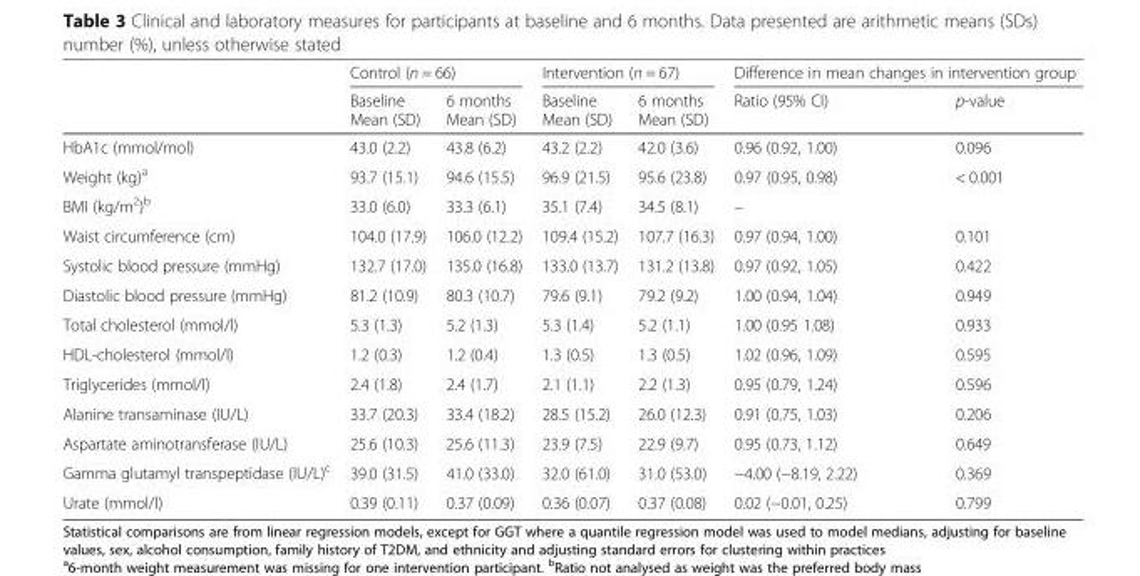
<table><thead><tr><td rowspan="2"></td><td colspan="2">Control (n = 66)</td><td colspan="2">Intervention (n = 67)</td><td colspan="2">Difference in mean changes in intervention group</td></tr><tr><td>Baseline Mean (SD)</td><td>6 months Mean (SD)</td><td>Baseline Mean (SD)</td><td>6 months Mean (SD)</td><td>Ratio (95% CI)</td><td>p-value</td></tr></thead><tbody><tr><td>HbA1c (mmol/mol)</td><td>43.0 (2.2)</td><td>43.8 (6.2)</td><td>43.2 (2.2)</td><td>42.0 (3.6)</td><td>0.96 (0.92, 1.00)</td><td>0.096</td></tr><tr><td>Weight (kg)<sup>a</sup></td><td>93.7 (15.1)</td><td>94.6 (15.5)</td><td>96.9 (21.5)</td><td>95.6 (23.8)</td><td>0.97 (0.95, 0.98)</td><td>&lt; 0.001</td></tr><tr><td>BMI (kg/m<sup>2</sup>)<sup>b</sup></td><td>33.0 (6.0)</td><td>33.3 (6.1)</td><td>35.1 (7.4)</td><td>34.5 (8.1)</td><td>–</td><td></td></tr><tr><td>Waist circumference (cm)</td><td>104.0 (17.9)</td><td>106.0 (12.2)</td><td>109.4 (15.2)</td><td>107.7 (16.3)</td><td>0.97 (0.94, 1.00)</td><td>0.101</td></tr><tr><td>Systolic blood pressure (mmHg)</td><td>132.7 (17.0)</td><td>135.0 (16.8)</td><td>133.0 (13.7)</td><td>131.2 (13.8)</td><td>0.97 (0.92, 1.05)</td><td>0.422</td></tr><tr><td>Diastolic blood pressure (mmHg)</td><td>81.2 (10.9)</td><td>80.3 (10.7)</td><td>79.6 (9.1)</td><td>79.2 (9.2)</td><td>1.00 (0.94, 1.04)</td><td>0.949</td></tr><tr><td>Total cholesterol (mmol/l)</td><td>5.3 (1.3)</td><td>5.2 (1.3)</td><td>5.3 (1.4)</td><td>5.2 (1.1)</td><td>1.00 (0.95 1.08)</td><td>0.933</td></tr><tr><td>HDL-cholesterol (mmol/l)</td><td>1.2 (0.3)</td><td>1.2 (0.4)</td><td>1.3 (0.5)</td><td>1.3 (0.5)</td><td>1.02 (0.96, 1.09)</td><td>0.595</td></tr><tr><td>Triglycerides (mmol/l)</td><td>2.4 (1.8)</td><td>2.4 (1.7)</td><td>2.1 (1.1)</td><td>2.2 (1.3)</td><td>0.95 (0.79, 1.24)</td><td>0.596</td></tr><tr><td>Alanine transaminase (IU/L)</td><td>33.7 (20.3)</td><td>33.4 (18.2)</td><td>28.5 (15.2)</td><td>26.0 (12.3)</td><td>0.91 (0.75, 1.03)</td><td>0.206</td></tr><tr><td>Aspartate aminotransferase (IU/L)</td><td>25.6 (10.3)</td><td>25.6 (11.3)</td><td>23.9 (7.5)</td><td>22.9 (9.7)</td><td>0.95 (0.73, 1.12)</td><td>0.649</td></tr><tr><td>Gamma glutamyl transpeptidase (IU/L)<sup>c</sup></td><td>39.0 (31.5)</td><td>41.0 (33.0)</td><td>32.0 (61.0)</td><td>31.0 (53.0)</td><td>−4.00 (−8.19, 2.22)</td><td>0.369</td></tr><tr><td>Urate (mmol/l)</td><td>0.39 (0.11)</td><td>0.37 (0.09)</td><td>0.36 (0.07)</td><td>0.37 (0.08)</td><td>0.02 (−0.01, 0.25)</td><td>0.799</td></tr></tbody></table>